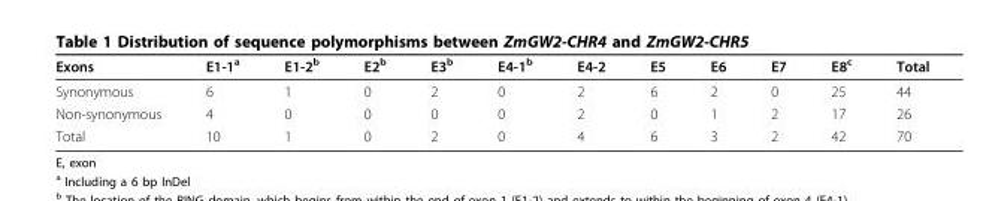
<table><thead><tr><td>Exons</td><td>E1-1<sup>a</sup></td><td>E1-2<sup>b</sup></td><td>E2<sup>b</sup></td><td>E3<sup>b</sup></td><td>E4-1<sup>b</sup></td><td>E4-2</td><td>E5</td><td>E6</td><td>E7</td><td>E8<sup>c</sup></td><td>Total</td></tr></thead><tbody><tr><td>Synonymous</td><td>6</td><td>1</td><td>0</td><td>2</td><td>0</td><td>2</td><td>6</td><td>2</td><td>0</td><td>25</td><td>44</td></tr><tr><td>Non-synonymous</td><td>4</td><td>0</td><td>0</td><td>0</td><td>0</td><td>2</td><td>0</td><td>1</td><td>2</td><td>17</td><td>26</td></tr><tr><td>Total</td><td>10</td><td>1</td><td>0</td><td>2</td><td>0</td><td>4</td><td>6</td><td>3</td><td>2</td><td>42</td><td>70</td></tr></tbody></table>